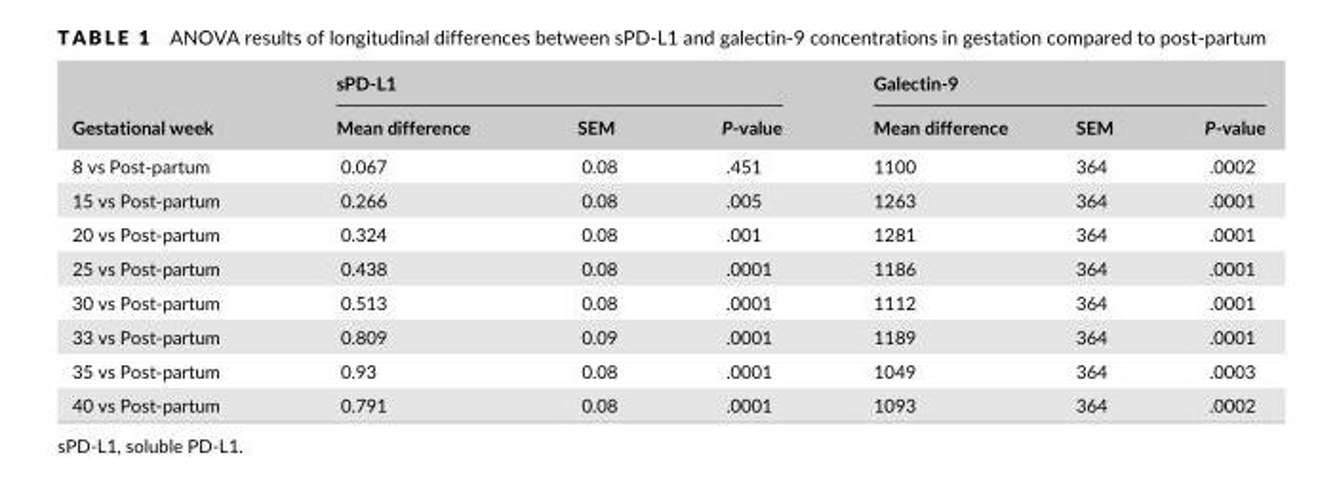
<table><thead><tr><td rowspan="2">Gestational week</td><td colspan="3">sPD- L1</td><td colspan="3">Galectin- 9</td></tr><tr><td>Mean difference</td><td>SEM</td><td>P- value</td><td>Mean difference</td><td>SEM</td><td>P- value</td></tr></thead><tbody><tr><td>8 vs Post- partum</td><td>0.067</td><td>0.08</td><td>.451</td><td>1100</td><td>364</td><td>.0002</td></tr><tr><td>15 vs Post- partum</td><td>0.266</td><td>0.08</td><td>.005</td><td>1263</td><td>364</td><td>.0001</td></tr><tr><td>20 vs Post- partum</td><td>0.324</td><td>0.08</td><td>.001</td><td>1281</td><td>364</td><td>.0001</td></tr><tr><td>25 vs Post- partum</td><td>0.438</td><td>0.08</td><td>.0001</td><td>1186</td><td>364</td><td>.0001</td></tr><tr><td>30 vs Post- partum</td><td>0.513</td><td>0.08</td><td>.0001</td><td>1112</td><td>364</td><td>.0001</td></tr><tr><td>33 vs Post- partum</td><td>0.809</td><td>0.09</td><td>.0001</td><td>1189</td><td>364</td><td>.0001</td></tr><tr><td>35 vs Post- partum</td><td>0.93</td><td>0.08</td><td>.0001</td><td>1049</td><td>364</td><td>.0003</td></tr><tr><td>40 vs Post- partum</td><td>0.791</td><td>0.08</td><td>.0001</td><td>1093</td><td>364</td><td>.0002</td></tr></tbody></table>